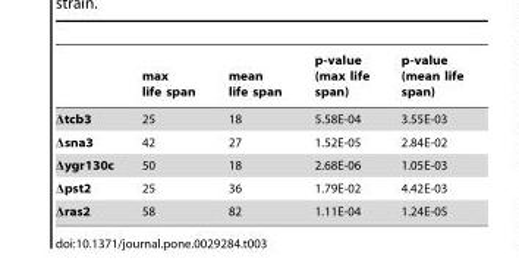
<table><thead><tr><td></td><td>max life span</td><td>mean life span</td><td>p-value (max life span)</td><td>p-value (mean life span)</td></tr></thead><tbody><tr><td>Δtcb3</td><td>25</td><td>18</td><td>5.58E-04</td><td>3.55E-03</td></tr><tr><td>Δsna3</td><td>42</td><td>27</td><td>1.52E-05</td><td>2.84E-02</td></tr><tr><td>Δygr130c</td><td>50</td><td>18</td><td>2.68E-06</td><td>1.05E-03</td></tr><tr><td>Δpst2</td><td>25</td><td>36</td><td>1.79E-02</td><td>4.42E-03</td></tr><tr><td>Δras2</td><td>58</td><td>82</td><td>1.11E-04</td><td>1.24E-05</td></tr></tbody></table>